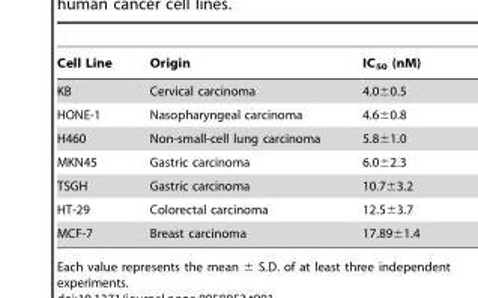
<table><thead><tr><td>Cell Line</td><td>Origin</td><td>IC<sub>50</sub> (nM)</td></tr></thead><tbody><tr><td>KB</td><td>Cervical carcinoma</td><td>4.0±0.5</td></tr><tr><td>HONE-1</td><td>Nasopharyngeal carcinoma</td><td>4.6±0.8</td></tr><tr><td>H460</td><td>Non-small-cell lung carcinoma</td><td>5.8±1.0</td></tr><tr><td>MKN45</td><td>Gastric carcinoma</td><td>6.0±2.3</td></tr><tr><td>TSGH</td><td>Gastric carcinoma</td><td>10.7±3.2</td></tr><tr><td>HT-29</td><td>Colorectal carcinoma</td><td>12.5±3.7</td></tr><tr><td>MCF-7</td><td>Breast carcinoma</td><td>17.89±1.4</td></tr></tbody></table>